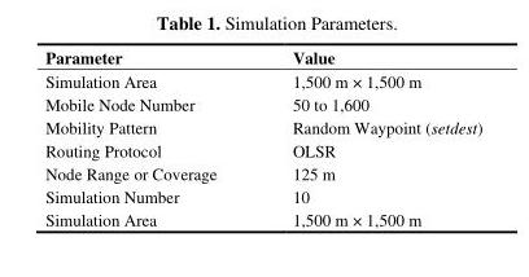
<table><thead><tr><td>Parameter</td><td>Value</td></tr></thead><tbody><tr><td>Simulation Area</td><td>1,500 m × 1,500 m</td></tr><tr><td>Mobile Node Number</td><td>50 to 1,600</td></tr><tr><td>Mobility Pattern</td><td>Random Waypoint (setdest)</td></tr><tr><td>Routing Protocol</td><td>OLSR</td></tr><tr><td>Node Range or Coverage</td><td>125 m</td></tr><tr><td>Simulation Number</td><td>10</td></tr><tr><td>Simulation Area</td><td>1,500 m × 1,500 m</td></tr></tbody></table>